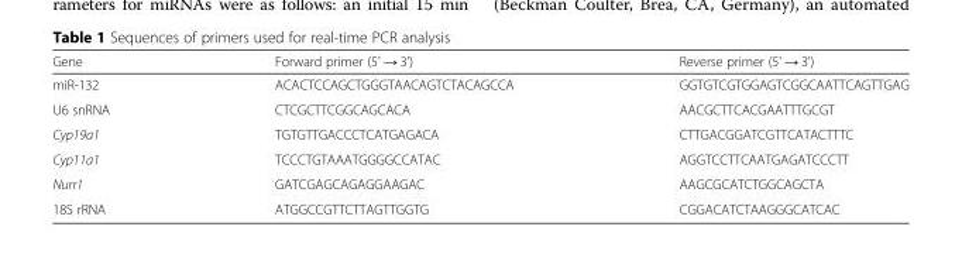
<table><thead><tr><td>Gene</td><td>Forward primer (5&#x27; → 3&#x27;)</td><td>Reverse primer (5&#x27; → 3&#x27;)</td></tr></thead><tbody><tr><td>miR-132</td><td>ACACTCCAGCTGGGTAACAGTCTACAGCCA</td><td>GGTGTCGTGGAGTCGGCAATTCAGTTGAG</td></tr><tr><td>U6 snRNA</td><td>CTCGCTTCGGCAGCACA</td><td>AACGCTTCACGAATTTGCGT</td></tr><tr><td>Cyp19a1</td><td>TGTGTTGACCCTCATGAGACA</td><td>CTTGACGGATCGTTCATACTTTC</td></tr><tr><td>Cyp11a1</td><td>TCCCTGTAAATGGGGCCATAC</td><td>AGGTCCTTCAATGAGATCCCTT</td></tr><tr><td>Nurr1</td><td>GATCGAGCAGAGGAAGAC</td><td>AAGCGCATCTGGCAGCTA</td></tr><tr><td>18S rRNA</td><td>ATGGCCGTTCTTAGTTGGTG</td><td>CGGACATCTAAGGGCATCAC</td></tr></tbody></table>